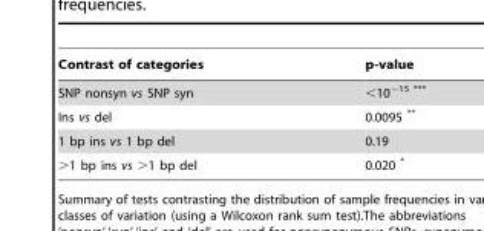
<table><thead><tr><td>Contrast of categories</td><td>p-value</td></tr></thead><tbody><tr><td>SNP nonsyn vs SNP syn</td><td>&lt;10<sup>−15 ***</sup></td></tr><tr><td>Ins vs del</td><td>0.0095 **</td></tr><tr><td>1 bp ins vs 1 bp del</td><td>0.19</td></tr><tr><td>&gt;1 bp ins vs &gt;1 bp del</td><td>0.020 *</td></tr></tbody></table>